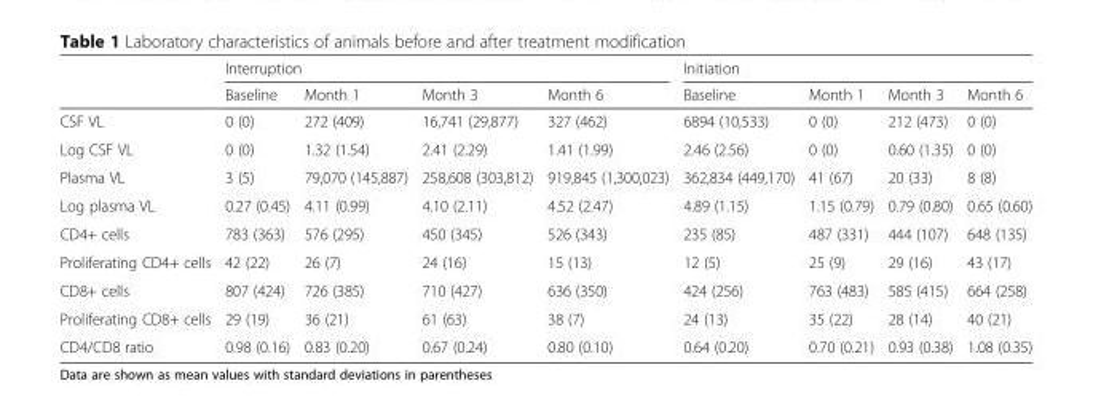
<table><thead><tr><td rowspan="2"></td><td colspan="4">Interruption</td><td colspan="4">Initiation</td></tr><tr><td>Baseline</td><td>Month 1</td><td>Month 3</td><td>Month 6</td><td>Baseline</td><td>Month 1</td><td>Month 3</td><td>Month 6</td></tr></thead><tbody><tr><td>CSF VL</td><td>0 (0)</td><td>272 (409)</td><td>16,741 (29,877)</td><td>327 (462)</td><td>6894 (10,533)</td><td>0 (0)</td><td>212 (473)</td><td>0 (0)</td></tr><tr><td>Log CSF VL</td><td>0 (0)</td><td>1.32 (1.54)</td><td>2.41 (2.29)</td><td>1.41 (1.99)</td><td>2.46 (2.56)</td><td>0 (0)</td><td>0.60 (1.35)</td><td>0 (0)</td></tr><tr><td>Plasma VL</td><td>3 (5)</td><td>79,070 (145,887)</td><td>258,608 (303,812)</td><td>919,845 (1,300,023)</td><td>362,834 (449,170)</td><td>41 (67)</td><td>20 (33)</td><td>8 (8)</td></tr><tr><td>Log plasma VL</td><td>0.27 (0.45)</td><td>4.11 (0.99)</td><td>4.10 (2.11)</td><td>4.52 (2.47)</td><td>4.89 (1.15)</td><td>1.15 (0.79)</td><td>0.79 (0.80)</td><td>0.65 (0.60)</td></tr><tr><td>CD4+ cells</td><td>783 (363)</td><td>576 (295)</td><td>450 (345)</td><td>526 (343)</td><td>235 (85)</td><td>487 (331)</td><td>444 (107)</td><td>648 (135)</td></tr><tr><td>Proliferating CD4+ cells</td><td>42 (22)</td><td>26 (7)</td><td>24 (16)</td><td>15 (13)</td><td>12 (5)</td><td>25 (9)</td><td>29 (16)</td><td>43 (17)</td></tr><tr><td>CD8+ cells</td><td>807 (424)</td><td>726 (385)</td><td>710 (427)</td><td>636 (350)</td><td>424 (256)</td><td>763 (483)</td><td>585 (415)</td><td>664 (258)</td></tr><tr><td>Proliferating CD8+ cells</td><td>29 (19)</td><td>36 (21)</td><td>61 (63)</td><td>38 (7)</td><td>24 (13)</td><td>35 (22)</td><td>28 (14)</td><td>40 (21)</td></tr><tr><td>CD4/CD8 ratio</td><td>0.98 (0.16)</td><td>0.83 (0.20)</td><td>0.67 (0.24)</td><td>0.80 (0.10)</td><td>0.64 (0.20)</td><td>0.70 (0.21)</td><td>0.93 (0.38)</td><td>1.08 (0.35)</td></tr></tbody></table>